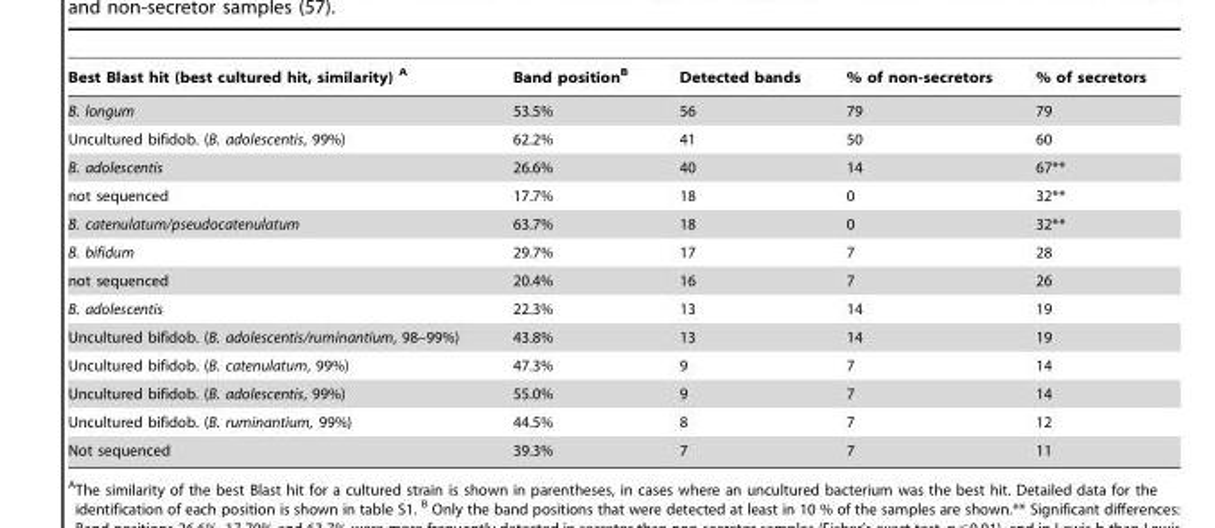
<table><thead><tr><td>Best Blast hit (best cultured hit, similarity) A</td><td>Band position<sup>B</sup></td><td>Detected bands</td><td>% of non-secretors</td><td>% of secretors</td></tr></thead><tbody><tr><td>B. longum</td><td>53.5%</td><td>56</td><td>79</td><td>79</td></tr><tr><td>Uncultured bifidob. (B. adolescentis, 99%)</td><td>62.2%</td><td>41</td><td>50</td><td>60</td></tr><tr><td>B. adolescentis</td><td>26.6%</td><td>40</td><td>14</td><td>67**</td></tr><tr><td>not sequenced</td><td>17.7%</td><td>18</td><td>0</td><td>32**</td></tr><tr><td>B. catenulatum/pseudocatenulatum</td><td>63.7%</td><td>18</td><td>0</td><td>32**</td></tr><tr><td>B. bifidum</td><td>29.7%</td><td>17</td><td>7</td><td>28</td></tr><tr><td>not sequenced</td><td>20.4%</td><td>16</td><td>7</td><td>26</td></tr><tr><td>B. adolescentis</td><td>22.3%</td><td>13</td><td>14</td><td>19</td></tr><tr><td>Uncultured bifidob. (B. adolescentis/ruminantium, 98–99%)</td><td>43.8%</td><td>13</td><td>14</td><td>19</td></tr><tr><td>Uncultured bifidob. (B. catenulatum, 99%)</td><td>47.3%</td><td>9</td><td>7</td><td>14</td></tr><tr><td>Uncultured bifidob. (B. adolescentis, 99%)</td><td>55.0%</td><td>9</td><td>7</td><td>14</td></tr><tr><td>Uncultured bifidob. (B. ruminantium, 99%)</td><td>44.5%</td><td>8</td><td>7</td><td>12</td></tr><tr><td>Not sequenced</td><td>39.3%</td><td>7</td><td>7</td><td>11</td></tr></tbody></table>